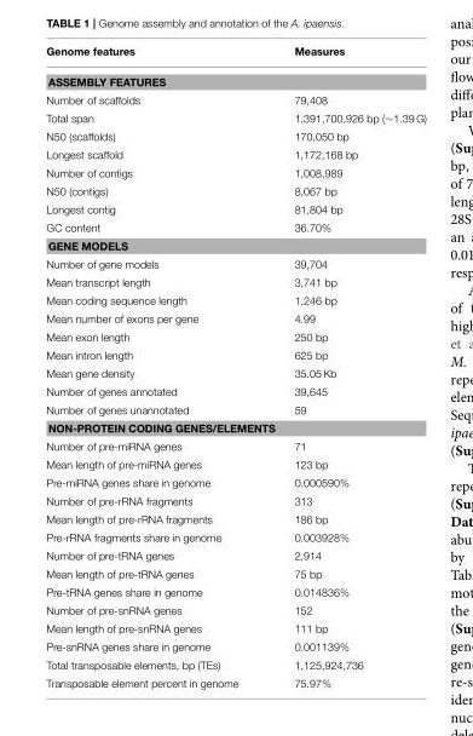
<table><thead><tr><td>Genome features</td><td>Measures</td></tr></thead><tbody><tr><td colspan="2">ASSEMBLY FEATURES</td></tr><tr><td>Number of scaffolds</td><td>79,408</td></tr><tr><td>Total span</td><td>1,391,700,926 bp (∼1.39 G)</td></tr><tr><td>N50 (scaffolds)</td><td>170,050 bp</td></tr><tr><td>Longest scaffold</td><td>1,172,168 bp</td></tr><tr><td>Number of contigs</td><td>1,008,989</td></tr><tr><td>N50 (contigs)</td><td>8,067 bp</td></tr><tr><td>Longest contig</td><td>81,804 bp</td></tr><tr><td>GC content</td><td>36.70%</td></tr><tr><td colspan="2">GENE MODELS</td></tr><tr><td>Number of gene models</td><td>39,704</td></tr><tr><td>Mean transcript length</td><td>3,741 bp</td></tr><tr><td>Mean coding sequence length</td><td>1,246 bp</td></tr><tr><td>Mean number of exons per gene</td><td>4.99</td></tr><tr><td>Mean exon length</td><td>250 bp</td></tr><tr><td>Mean intron length</td><td>625 bp</td></tr><tr><td>Mean gene density</td><td>35.05 Kb</td></tr><tr><td>Number of genes annotated</td><td>39,645</td></tr><tr><td>Number of genes unannotated</td><td>59</td></tr><tr><td colspan="2">NON-PROTEIN CODING GENES/ELEMENTS</td></tr><tr><td>Number of pre-miRNA genes</td><td>71</td></tr><tr><td>Mean length of pre-miRNA genes</td><td>123 bp</td></tr><tr><td>Pre-miRNA genes share in genome</td><td>0.000590%</td></tr><tr><td>Number of pre-rRNA fragments</td><td>313</td></tr><tr><td>Mean length of pre-rRNA fragments</td><td>186 bp</td></tr><tr><td>Pre-rRNA fragments share in genome</td><td>0.003928%</td></tr><tr><td>Number of pre-tRNA genes</td><td>2,914</td></tr><tr><td>Mean length of pre-tRNA genes</td><td>75 bp</td></tr><tr><td>Pre-tRNA genes share in genome</td><td>0.014836%</td></tr><tr><td>Number of pre-snRNA genes</td><td>152</td></tr><tr><td>Mean length of pre-snRNA genes</td><td>111 bp</td></tr><tr><td>Pre-snRNA genes share in genome</td><td>0.001139%</td></tr><tr><td>Total transposable elements, bp (TEs)</td><td>1,125,924,736</td></tr><tr><td>Transposable element percent in genome</td><td>75.97%</td></tr></tbody></table>